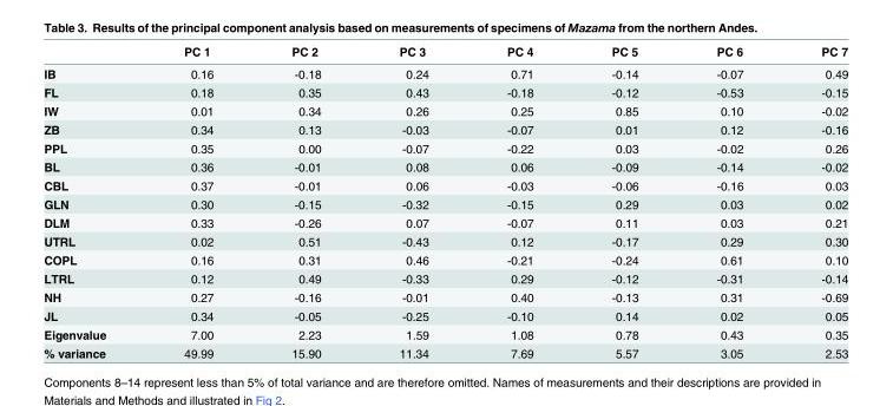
<table><thead><tr><td></td><td>PC 1</td><td>PC 2</td><td>PC 3</td><td>PC 4</td><td>PC 5</td><td>PC 6</td><td>PC 7</td></tr></thead><tbody><tr><td>IB</td><td>0.16</td><td>-0.18</td><td>0.24</td><td>0.71</td><td>-0.14</td><td>-0.07</td><td>0.49</td></tr><tr><td>FL</td><td>0.18</td><td>0.35</td><td>0.43</td><td>-0.18</td><td>-0.12</td><td>-0.53</td><td>-0.15</td></tr><tr><td>IW</td><td>0.01</td><td>0.34</td><td>0.26</td><td>0.25</td><td>0.85</td><td>0.10</td><td>-0.02</td></tr><tr><td>ZB</td><td>0.34</td><td>0.13</td><td>-0.03</td><td>-0.07</td><td>0.01</td><td>0.12</td><td>-0.16</td></tr><tr><td>PPL</td><td>0.35</td><td>0.00</td><td>-0.07</td><td>-0.22</td><td>0.03</td><td>-0.02</td><td>0.26</td></tr><tr><td>BL</td><td>0.36</td><td>-0.01</td><td>0.08</td><td>0.06</td><td>-0.09</td><td>-0.14</td><td>-0.02</td></tr><tr><td>CBL</td><td>0.37</td><td>-0.01</td><td>0.06</td><td>-0.03</td><td>-0.06</td><td>-0.16</td><td>0.03</td></tr><tr><td>GLN</td><td>0.30</td><td>-0.15</td><td>-0.32</td><td>-0.15</td><td>0.29</td><td>0.03</td><td>0.02</td></tr><tr><td>DLM</td><td>0.33</td><td>-0.26</td><td>0.07</td><td>-0.07</td><td>0.11</td><td>0.03</td><td>0.21</td></tr><tr><td>UTRL</td><td>0.02</td><td>0.51</td><td>-0.43</td><td>0.12</td><td>-0.17</td><td>0.29</td><td>0.30</td></tr><tr><td>COPL</td><td>0.16</td><td>0.31</td><td>0.46</td><td>-0.21</td><td>-0.24</td><td>0.61</td><td>0.10</td></tr><tr><td>LTRL</td><td>0.12</td><td>0.49</td><td>-0.33</td><td>0.29</td><td>-0.12</td><td>-0.31</td><td>-0.14</td></tr><tr><td>NH</td><td>0.27</td><td>-0.16</td><td>-0.01</td><td>0.40</td><td>-0.13</td><td>0.31</td><td>-0.69</td></tr><tr><td>JL</td><td>0.34</td><td>-0.05</td><td>-0.25</td><td>-0.10</td><td>0.14</td><td>0.02</td><td>0.05</td></tr><tr><td>Eigenvalue</td><td>7.00</td><td>2.23</td><td>1.59</td><td>1.08</td><td>0.78</td><td>0.43</td><td>0.35</td></tr><tr><td>% variance</td><td>49.99</td><td>15.90</td><td>11.34</td><td>7.69</td><td>5.57</td><td>3.05</td><td>2.53</td></tr></tbody></table>